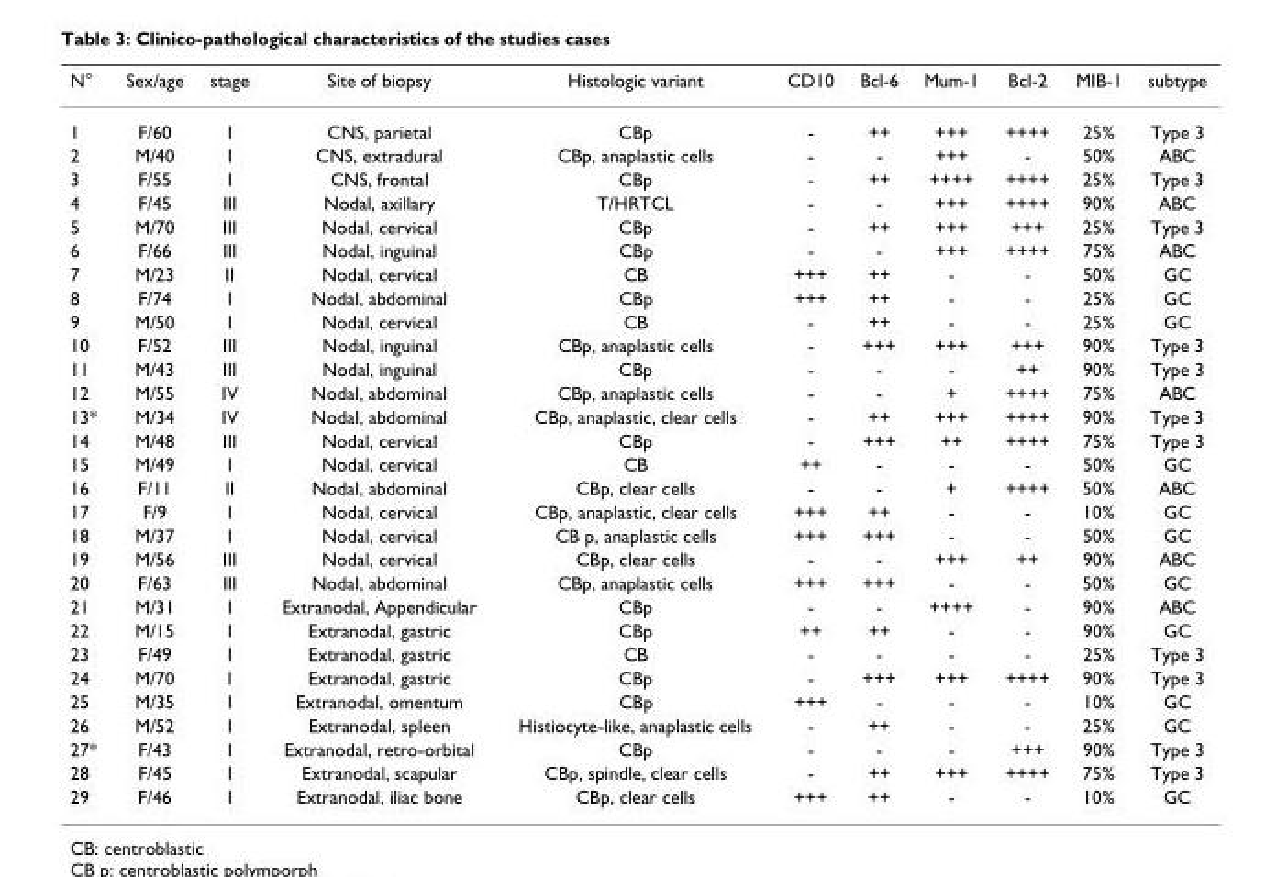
<table><thead><tr><td>N°</td><td>Sex/age</td><td>stage</td><td>Site of biopsy</td><td>Histologic variant</td><td>CD10</td><td>Bcl-6</td><td>Mum-1</td><td>Bcl-2</td><td>MIB-1</td><td>subtype</td></tr></thead><tbody><tr><td>1</td><td>F/60</td><td>I</td><td>CNS, parietal</td><td>CBp</td><td>-</td><td>++</td><td>+++</td><td>++++</td><td>25%</td><td>Type 3</td></tr><tr><td>2</td><td>M/40</td><td>I</td><td>CNS, extradural</td><td>CBp, anaplastic cells</td><td>-</td><td>-</td><td>+++</td><td>-</td><td>50%</td><td>ABC</td></tr><tr><td>3</td><td>F/55</td><td>I</td><td>CNS, frontal</td><td>CBp</td><td>-</td><td>++</td><td>++++</td><td>++++</td><td>25%</td><td>Type 3</td></tr><tr><td>4</td><td>F/45</td><td>III</td><td>Nodal, axillary</td><td>T/HRTCL</td><td>-</td><td>-</td><td>+++</td><td>++++</td><td>90%</td><td>ABC</td></tr><tr><td>5</td><td>M/70</td><td>III</td><td>Nodal, cervical</td><td>CBp</td><td>-</td><td>++</td><td>+++</td><td>+++</td><td>25%</td><td>Type 3</td></tr><tr><td>6</td><td>F/66</td><td>III</td><td>Nodal, inguinal</td><td>CBp</td><td>-</td><td>-</td><td>+++</td><td>++++</td><td>75%</td><td>ABC</td></tr><tr><td>7</td><td>M/23</td><td>II</td><td>Nodal, cervical</td><td>CB</td><td>+++</td><td>++</td><td>-</td><td>-</td><td>50%</td><td>GC</td></tr><tr><td>8</td><td>F/74</td><td>I</td><td>Nodal, abdominal</td><td>CBp</td><td>+++</td><td>++</td><td>-</td><td>-</td><td>25%</td><td>GC</td></tr><tr><td>9</td><td>M/50</td><td>I</td><td>Nodal, cervical</td><td>CB</td><td>-</td><td>++</td><td>-</td><td>-</td><td>25%</td><td>GC</td></tr><tr><td>10</td><td>F/52</td><td>III</td><td>Nodal, inguinal</td><td>CBp, anaplastic cells</td><td>-</td><td>+++</td><td>+++</td><td>+++</td><td>90%</td><td>Type 3</td></tr><tr><td>11</td><td>M/43</td><td>III</td><td>Nodal, inguinal</td><td>CBp</td><td>-</td><td>-</td><td>-</td><td>++</td><td>90%</td><td>Type 3</td></tr><tr><td>12</td><td>M/55</td><td>IV</td><td>Nodal, abdominal</td><td>CBp, anaplastic cells</td><td>-</td><td>-</td><td>+</td><td>++++</td><td>75%</td><td>ABC</td></tr><tr><td>13*</td><td>M/34</td><td>IV</td><td>Nodal, abdominal</td><td>CBp, anaplastic, clear cells</td><td>-</td><td>++</td><td>+++</td><td>++++</td><td>90%</td><td>Type 3</td></tr><tr><td>14</td><td>M/48</td><td>III</td><td>Nodal, cervical</td><td>CBp</td><td>-</td><td>+++</td><td>++</td><td>++++</td><td>75%</td><td>Type 3</td></tr><tr><td>15</td><td>M/49</td><td>I</td><td>Nodal, cervical</td><td>CB</td><td>++</td><td>-</td><td>-</td><td>-</td><td>50%</td><td>GC</td></tr><tr><td>16</td><td>F/11</td><td>II</td><td>Nodal, abdominal</td><td>CBp, clear cells</td><td>-</td><td>-</td><td>+</td><td>++++</td><td>50%</td><td>ABC</td></tr><tr><td>17</td><td>F/9</td><td>I</td><td>Nodal, cervical</td><td>CBp, anaplastic, clear cells</td><td>+++</td><td>++</td><td>-</td><td>-</td><td>10%</td><td>GC</td></tr><tr><td>18</td><td>M/37</td><td>I</td><td>Nodal, cervical</td><td>CB p, anaplastic cells</td><td>+++</td><td>+++</td><td>-</td><td>-</td><td>50%</td><td>GC</td></tr><tr><td>19</td><td>M/56</td><td>III</td><td>Nodal, cervical</td><td>CBp, clear cells</td><td>-</td><td>-</td><td>+++</td><td>++</td><td>90%</td><td>ABC</td></tr><tr><td>20</td><td>F/63</td><td>III</td><td>Nodal, abdominal</td><td>CBp, anaplastic cells</td><td>+++</td><td>+++</td><td>-</td><td>-</td><td>50%</td><td>GC</td></tr><tr><td>21</td><td>M/31</td><td>I</td><td>Extranodal, Appendicular</td><td>CBp</td><td>-</td><td>-</td><td>++++</td><td>-</td><td>90%</td><td>ABC</td></tr><tr><td>22</td><td>M/15</td><td>I</td><td>Extranodal, gastric</td><td>CBp</td><td>++</td><td>++</td><td>-</td><td>-</td><td>90%</td><td>GC</td></tr><tr><td>23</td><td>F/49</td><td>I</td><td>Extranodal, gastric</td><td>CB</td><td>-</td><td>-</td><td>-</td><td>-</td><td>25%</td><td>Type 3</td></tr><tr><td>24</td><td>M/70</td><td>I</td><td>Extranodal, gastric</td><td>CBp</td><td>-</td><td>+++</td><td>+++</td><td>++++</td><td>90%</td><td>Type 3</td></tr><tr><td>25</td><td>M/35</td><td>I</td><td>Extranodal, omentum</td><td>CBp</td><td>+++</td><td>-</td><td>-</td><td>-</td><td>10%</td><td>GC</td></tr><tr><td>26</td><td>M/52</td><td>I</td><td>Extranodal, spleen</td><td>Histiocyte-like, anaplastic cells</td><td>-</td><td>++</td><td>-</td><td>-</td><td>25%</td><td>GC</td></tr><tr><td>27*</td><td>F/43</td><td>I</td><td>Extranodal, retro-orbital</td><td>CBp</td><td>-</td><td>-</td><td>-</td><td>+++</td><td>90%</td><td>Type 3</td></tr><tr><td>28</td><td>F/45</td><td>I</td><td>Extranodal, scapular</td><td>CBp, spindle, clear cells</td><td>-</td><td>++</td><td>+++</td><td>++++</td><td>75%</td><td>Type 3</td></tr><tr><td>29</td><td>F/46</td><td>I</td><td>Extranodal, iliac bone</td><td>CBp, clear cells</td><td>+++</td><td>++</td><td>-</td><td>-</td><td>10%</td><td>GC</td></tr></tbody></table>